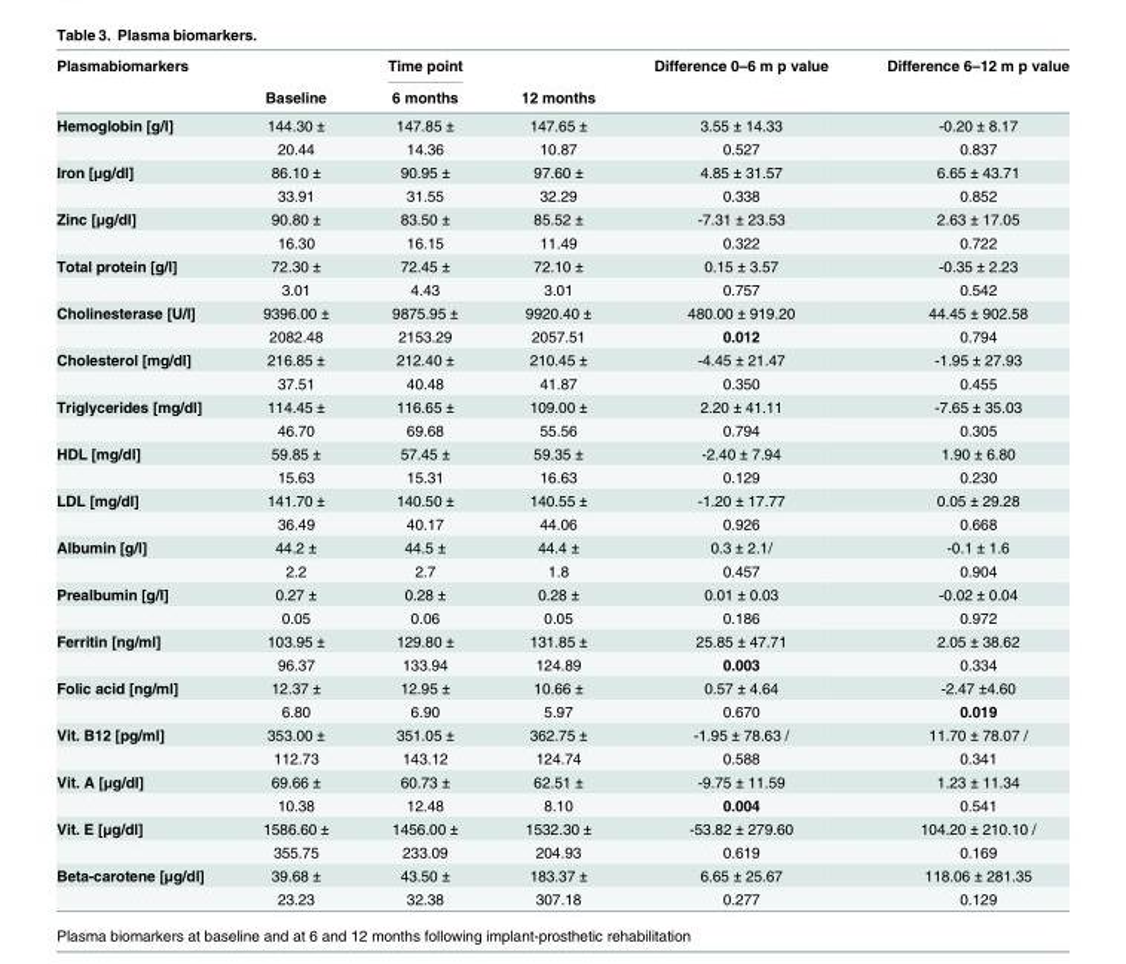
<table><thead><tr><td rowspan="2">Plasmabiomarkers</td><td rowspan="2">Baseline</td><td rowspan="2">Time point 6 months</td><td rowspan="2">12 months</td><td rowspan="2">Difference 0–6 m p value</td><td rowspan="2">Difference 6–12 m p value</td></tr><tr></tr></thead><tbody><tr><td rowspan="2">Hemoglobin [g/l]</td><td>144.30 ±</td><td>147.85 ±</td><td>147.65 ±</td><td>3.55 ± 14.33</td><td>-0.20 ± 8.17</td></tr><tr><td>20.44</td><td>14.36</td><td>10.87</td><td>0.527</td><td>0.837</td></tr><tr><td rowspan="2">Iron [μg/dl]</td><td>86.10 ±</td><td>90.95 ±</td><td>97.60 ±</td><td>4.85 ± 31.57</td><td>6.65 ± 43.71</td></tr><tr><td>33.91</td><td>31.55</td><td>32.29</td><td>0.338</td><td>0.852</td></tr><tr><td rowspan="2">Zinc [μg/dl]</td><td>90.80 ±</td><td>83.50 ±</td><td>85.52 ±</td><td>-7.31 ± 23.53</td><td>2.63 ± 17.05</td></tr><tr><td>16.30</td><td>16.15</td><td>11.49</td><td>0.322</td><td>0.722</td></tr><tr><td rowspan="2">Total protein [g/l]</td><td>72.30 ±</td><td>72.45 ±</td><td>72.10 ±</td><td>0.15 ± 3.57</td><td>-0.35 ± 2.23</td></tr><tr><td>3.01</td><td>4.43</td><td>3.01</td><td>0.757</td><td>0.542</td></tr><tr><td rowspan="2">Cholinesterase [U/l]</td><td>9396.00 ±</td><td>9875.95 ±</td><td>9920.40 ±</td><td>480.00 ± 919.20</td><td>44.45 ± 902.58</td></tr><tr><td>2082.48</td><td>2153.29</td><td>2057.51</td><td>0.012</td><td>0.794</td></tr><tr><td rowspan="2">Cholesterol [mg/dl]</td><td>216.85 ±</td><td>212.40 ±</td><td>210.45 ±</td><td>-4.45 ± 21.47</td><td>-1.95 ± 27.93</td></tr><tr><td>37.51</td><td>40.48</td><td>41.87</td><td>0.350</td><td>0.455</td></tr><tr><td rowspan="2">Triglycerides [mg/dl]</td><td>114.45 ±</td><td>116.65 ±</td><td>109.00 ±</td><td>2.20 ± 41.11</td><td>-7.65 ± 35.03</td></tr><tr><td>46.70</td><td>69.68</td><td>55.56</td><td>0.794</td><td>0.305</td></tr><tr><td rowspan="2">HDL [mg/dl]</td><td>59.85 ±</td><td>57.45 ±</td><td>59.35 ±</td><td>-2.40 ± 7.94</td><td>1.90 ± 6.80</td></tr><tr><td>15.63</td><td>15.31</td><td>16.63</td><td>0.129</td><td>0.230</td></tr><tr><td rowspan="2">LDL [mg/dl]</td><td>141.70 ±</td><td>140.50 ±</td><td>140.55 ±</td><td>-1.20 ± 17.77</td><td>0.05 ± 29.28</td></tr><tr><td>36.49</td><td>40.17</td><td>44.06</td><td>0.926</td><td>0.668</td></tr><tr><td rowspan="2">Albumin [g/l]</td><td>44.2 ±</td><td>44.5 ±</td><td>44.4 ±</td><td>0.3 ± 2.1/</td><td>-0.1 ± 1.6</td></tr><tr><td>2.2</td><td>2.7</td><td>1.8</td><td>0.457</td><td>0.904</td></tr><tr><td rowspan="2">Prealbumin [g/l]</td><td>0.27 ±</td><td>0.28 ±</td><td>0.28 ±</td><td>0.01 ± 0.03</td><td>-0.02 ± 0.04</td></tr><tr><td>0.05</td><td>0.06</td><td>0.05</td><td>0.186</td><td>0.972</td></tr><tr><td rowspan="2">Ferritin [ng/ml]</td><td>103.95 ±</td><td>129.80 ±</td><td>131.85 ±</td><td>25.85 ± 47.71</td><td>2.05 ± 38.62</td></tr><tr><td>96.37</td><td>133.94</td><td>124.89</td><td>0.003</td><td>0.334</td></tr><tr><td rowspan="2">Folic acid [ng/ml]</td><td>12.37 ±</td><td>12.95 ±</td><td>10.66 ±</td><td>0.57 ± 4.64</td><td>-2.47 ±4.60</td></tr><tr><td>6.80</td><td>6.90</td><td>5.97</td><td>0.670</td><td>0.019</td></tr><tr><td rowspan="2">Vit. B12 [pg/ml]</td><td>353.00 ±</td><td>351.05 ±</td><td>362.75 ±</td><td>-1.95 ± 78.63 /</td><td>11.70 ± 78.07 /</td></tr><tr><td>112.73</td><td>143.12</td><td>124.74</td><td>0.588</td><td>0.341</td></tr><tr><td rowspan="2">Vit. A [μg/dl]</td><td>69.66 ±</td><td>60.73 ±</td><td>62.51 ±</td><td>-9.75 ± 11.59</td><td>1.23 ± 11.34</td></tr><tr><td>10.38</td><td>12.48</td><td>8.10</td><td>0.004</td><td>0.541</td></tr><tr><td rowspan="2">Vit. E [μg/dl]</td><td>1586.60 ±</td><td>1456.00 ±</td><td>1532.30 ±</td><td>-53.82 ± 279.60</td><td>104.20 ± 210.10 /</td></tr><tr><td>355.75</td><td>233.09</td><td>204.93</td><td>0.619</td><td>0.169</td></tr><tr><td rowspan="2">Beta-carotene [μg/dl]</td><td>39.68 ±</td><td>43.50 ±</td><td>183.37 ±</td><td>6.65 ± 25.67</td><td>118.06 ± 281.35</td></tr><tr><td>23.23</td><td>32.38</td><td>307.18</td><td>0.277</td><td>0.129</td></tr></tbody></table>